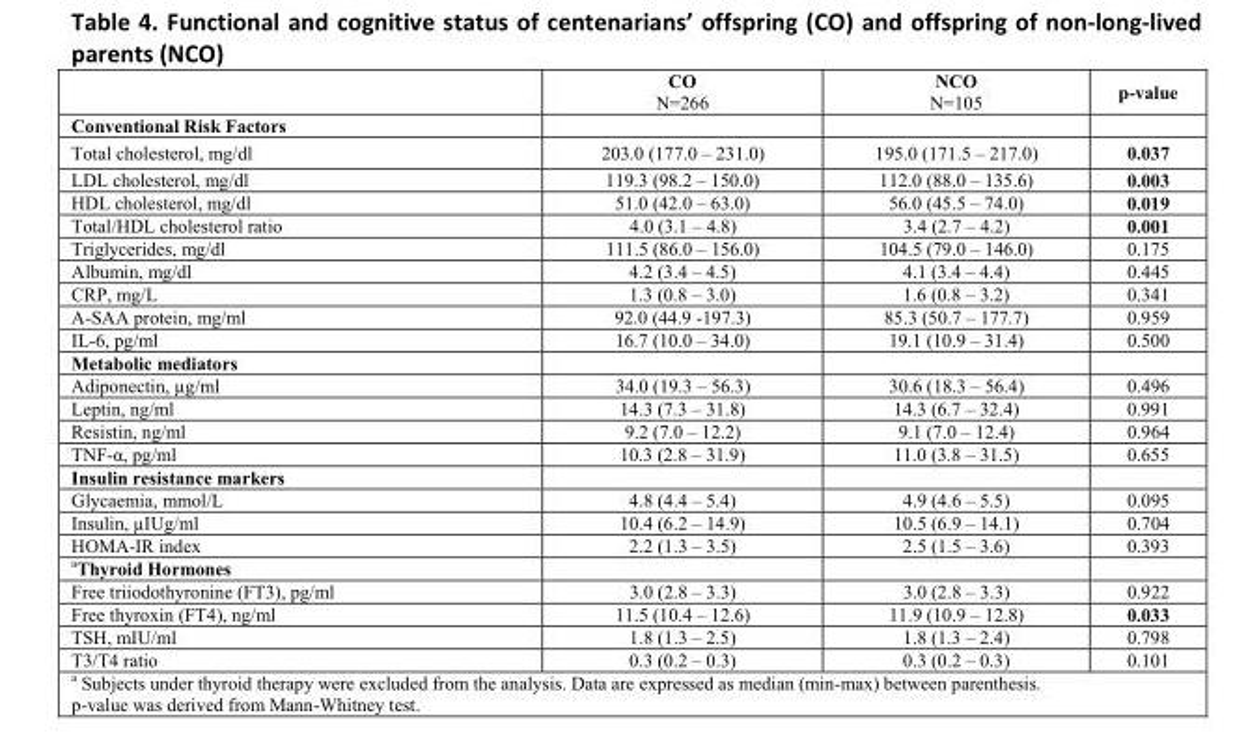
<table><thead><tr><td></td><td>CO N=266</td><td>NCO N=105</td><td>p-value</td></tr></thead><tbody><tr><td colspan="4">Conventional Risk Factors</td></tr><tr><td>Total cholesterol, mg/dl</td><td>203.0 (177.0 – 231.0)</td><td>195.0 (171.5 – 217.0)</td><td>0.037</td></tr><tr><td>LDL cholesterol, mg/dl</td><td>119.3 (98.2 – 150.0)</td><td>112.0 (88.0 – 135.6)</td><td>0.003</td></tr><tr><td>HDL cholesterol, mg/dl</td><td>51.0 (42.0 – 63.0)</td><td>56.0 (45.5 – 74.0)</td><td>0.019</td></tr><tr><td>Total/HDL cholesterol ratio</td><td>4.0 (3.1 – 4.8)</td><td>3.4 (2.7 – 4.2)</td><td>0.001</td></tr><tr><td>Triglycerides, mg/dl</td><td>111.5 (86.0 – 156.0)</td><td>104.5 (79.0 – 146.0)</td><td>0.175</td></tr><tr><td>Albumin, mg/dl</td><td>4.2 (3.4 – 4.5)</td><td>4.1 (3.4 – 4.4)</td><td>0.445</td></tr><tr><td>CRP, mg/L</td><td>1.3 (0.8 – 3.0)</td><td>1.6 (0.8 – 3.2)</td><td>0.341</td></tr><tr><td>A-SAA protein, mg/ml</td><td>92.0 (44.9 -197.3)</td><td>85.3 (50.7 – 177.7)</td><td>0.959</td></tr><tr><td>IL-6, pg/ml</td><td>16.7 (10.0 – 34.0)</td><td>19.1 (10.9 – 31.4)</td><td>0.500</td></tr><tr><td colspan="4">Metabolic mediators</td></tr><tr><td>Adiponectin, µg/ml</td><td>34.0 (19.3 – 56.3)</td><td>30.6 (18.3 – 56.4)</td><td>0.496</td></tr><tr><td>Leptin, ng/ml</td><td>14.3 (7.3 – 31.8)</td><td>14.3 (6.7 – 32.4)</td><td>0.991</td></tr><tr><td>Resistin, ng/ml</td><td>9.2 (7.0 – 12.2)</td><td>9.1 (7.0 – 12.4)</td><td>0.964</td></tr><tr><td>TNF-α, pg/ml</td><td>10.3 (2.8 – 31.9)</td><td>11.0 (3.8 – 31.5)</td><td>0.655</td></tr><tr><td colspan="4">Insulin resistance markers</td></tr><tr><td>Glycaemia, mmol/L</td><td>4.8 (4.4 – 5.4)</td><td>4.9 (4.6 – 5.5)</td><td>0.095</td></tr><tr><td>Insulin, µIUg/ml</td><td>10.4 (6.2 – 14.9)</td><td>10.5 (6.9 – 14.1)</td><td>0.704</td></tr><tr><td>HOMA-IR index</td><td>2.2 (1.3 – 3.5)</td><td>2.5 (1.5 – 3.6)</td><td>0.393</td></tr><tr><td colspan="4"><sup>a</sup>Thyroid Hormones</td></tr><tr><td>Free triiodothyronine (FT3), pg/ml</td><td>3.0 (2.8 – 3.3)</td><td>3.0 (2.8 – 3.3)</td><td>0.922</td></tr><tr><td>Free thyroxin (FT4), ng/ml</td><td>11.5 (10.4 – 12.6)</td><td>11.9 (10.9 – 12.8)</td><td>0.033</td></tr><tr><td>TSH, mIU/ml</td><td>1.8 (1.3 – 2.5)</td><td>1.8 (1.3 – 2.4)</td><td>0.798</td></tr><tr><td>T3/T4 ratio</td><td>0.3 (0.2 – 0.3)</td><td>0.3 (0.2 – 0.3)</td><td>0.101</td></tr></tbody></table>